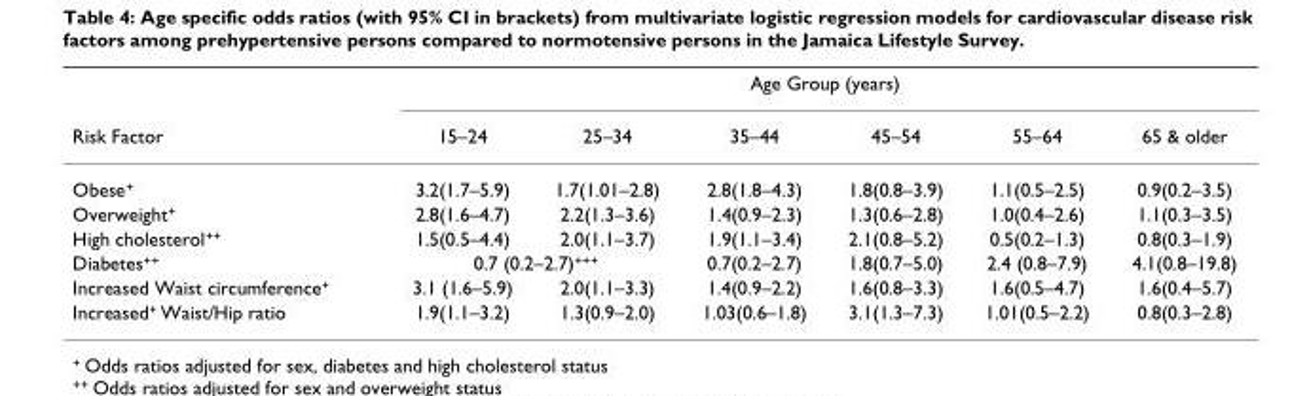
<table><thead><tr><td rowspan="2">Risk Factor</td><td colspan="6">Age Group (years)</td></tr><tr><td>15–24</td><td>25–34</td><td>35–44</td><td>45–54</td><td>55–64</td><td>65 &amp; older</td></tr></thead><tbody><tr><td>Obese<sup>+</sup></td><td>3.2(1.7–5.9)</td><td>1.7(1.01–2.8)</td><td>2.8(1.8–4.3)</td><td>1.8(0.8–3.9)</td><td>1.1(0.5–2.5)</td><td>0.9(0.2–3.5)</td></tr><tr><td>Overweight<sup>+</sup></td><td>2.8(1.6–4.7)</td><td>2.2(1.3–3.6)</td><td>1.4(0.9–2.3)</td><td>1.3(0.6–2.8)</td><td>1.0(0.4–2.6)</td><td>1.1(0.3–3.5)</td></tr><tr><td>High cholesterol<sup>++</sup></td><td>1.5(0.5–4.4)</td><td>2.0(1.1–3.7)</td><td>1.9(1.1–3.4)</td><td>2.1(0.8–5.2)</td><td>0.5(0.2–1.3)</td><td>0.8(0.3–1.9)</td></tr><tr><td>Diabetes<sup>++</sup></td><td colspan="2">0.7 (0.2–2.7)<sup>+++</sup></td><td>0.7(0.2–2.7)</td><td>1.8(0.7–5.0)</td><td>2.4 (0.8–7.9)</td><td>4.1(0.8–19.8)</td></tr><tr><td>Increased Waist circumference<sup>+</sup></td><td>3.1 (1.6–5.9)</td><td>2.0(1.1–3.3)</td><td>1.4(0.9–2.2)</td><td>1.6(0.8–3.3)</td><td>1.6(0.5–4.7)</td><td>1.6(0.4–5.7)</td></tr><tr><td>Increased<sup>+</sup> Waist/Hip ratio</td><td>1.9(1.1–3.2)</td><td>1.3(0.9–2.0)</td><td>1.03(0.6–1.8)</td><td>3.1(1.3–7.3)</td><td>1.01(0.5–2.2)</td><td>0.8(0.3–2.8)</td></tr></tbody></table>